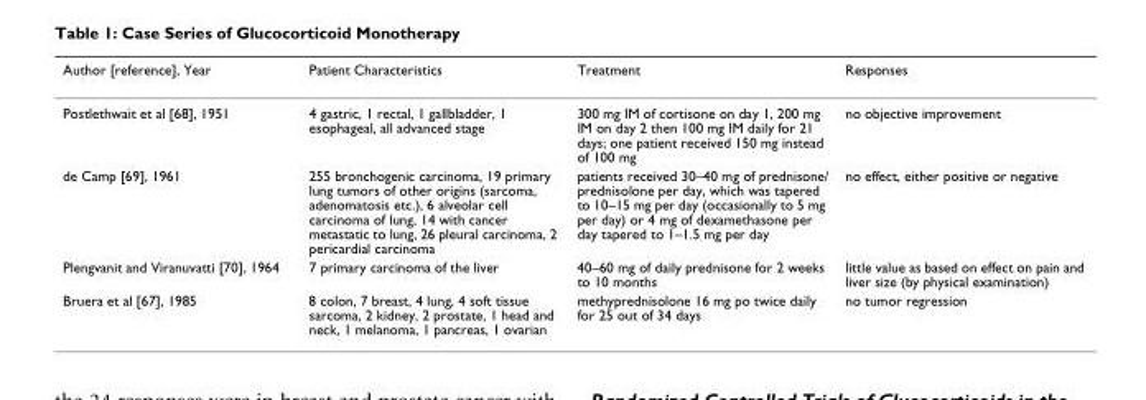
<table><thead><tr><td>Author [reference], Year</td><td>Patient Characteristics</td><td>Treatment</td><td>Responses</td></tr></thead><tbody><tr><td>Postlethwait et al [68], 1951</td><td>4 gastric, 1 rectal, 1 gallbladder, 1 esophageal, all advanced stage</td><td>300 mg IM of cortisone on day 1, 200 mg IM on day 2 then 100 mg IM daily for 21 days; one patient received 150 mg instead of 100 mg</td><td>no objective improvement</td></tr><tr><td>de Camp [69], 1961</td><td>255 bronchogenic carcinoma, 19 primary lung tumors of other origins (sarcoma, adenomatosis etc.), 6 alveolar cell carcinoma of lung, 14 with cancer metastatic to lung, 26 pleural carcinoma, 2 pericardial carcinoma</td><td>patients received 30–40 mg of prednisone/ prednisolone per day, which was tapered to 10–15 mg per day (occasionally to 5 mg per day) or 4 mg of dexamethasone per day tapered to 1–1.5 mg per day</td><td>no effect, either positive or negative</td></tr><tr><td>Plengvanit and Viranuvatti [70], 1964</td><td>7 primary carcinoma of the liver</td><td>40–60 mg of daily prednisone for 2 weeks to 10 months</td><td>little value as based on effect on pain and liver size (by physical examination)</td></tr><tr><td>Bruera et al [67], 1985</td><td>8 colon, 7 breast, 4 lung, 4 soft tissue sarcoma, 2 kidney, 2 prostate, 1 head and neck, 1 melanoma, 1 pancreas, 1 ovarian</td><td>methyprednisolone 16 mg po twice daily for 25 out of 34 days</td><td>no tumor regression</td></tr></tbody></table>